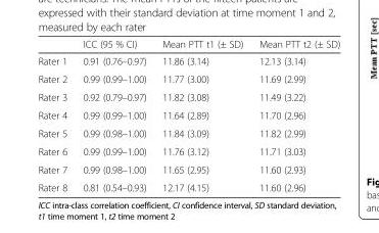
<table><thead><tr><td></td><td>ICC (95 % CI)</td><td>Mean PTT t1 (± SD)</td><td>Mean PTT t2 (± SD)</td></tr></thead><tbody><tr><td>Rater 1</td><td>0.91 (0.76–0.97)</td><td>11.86 (3.14)</td><td>12.13 (3.14)</td></tr><tr><td>Rater 2</td><td>0.99 (0.99–1.00)</td><td>11.77 (3.00)</td><td>11.69 (2.99)</td></tr><tr><td>Rater 3</td><td>0.92 (0.79–0.97)</td><td>11.82 (3.08)</td><td>11.49 (3.22)</td></tr><tr><td>Rater 4</td><td>0.99 (0.99–1.00)</td><td>11.64 (2.89)</td><td>11.70 (2.96)</td></tr><tr><td>Rater 5</td><td>0.99 (0.98–1.00)</td><td>11.84 (3.09)</td><td>11.82 (2.99)</td></tr><tr><td>Rater 6</td><td>0.99 (0.99–1.00)</td><td>11.76 (3.12)</td><td>11.71 (3.03)</td></tr><tr><td>Rater 7</td><td>0.99 (0.98–1.00)</td><td>11.65 (2.95)</td><td>11.60 (2.93)</td></tr><tr><td>Rater 8</td><td>0.81 (0.54–0.93)</td><td>12.17 (4.15)</td><td>11.60 (2.96)</td></tr></tbody></table>